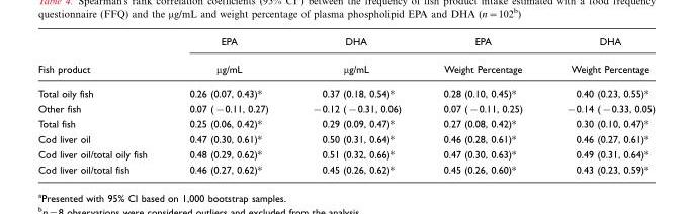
<table><thead><tr><td rowspan="2">Fish product</td><td rowspan="2">EPA µg/mL</td><td rowspan="2">DHA µg/mL</td><td rowspan="2">EPA Weight Percentage</td><td rowspan="2">DHA Weight Percentage</td></tr><tr></tr></thead><tbody><tr><td>Total oily fish</td><td>0.26 (0.07, 0.43)*</td><td>0.37 (0.18, 0.54)*</td><td>0.28 (0.10, 0.45)*</td><td>0.40 (0.23, 0.55)*</td></tr><tr><td>Other fish</td><td>0.07 (−0.11, 0.27)</td><td>−0.12 (−0.31, 0.06)</td><td>0.07 (−0.11, 0.25)</td><td>−0.14 (−0.33, 0.05)</td></tr><tr><td>Total fish</td><td>0.25 (0.06, 0.42)*</td><td>0.29 (0.09, 0.47)*</td><td>0.27 (0.08, 0.42)*</td><td>0.30 (0.10, 0.47)*</td></tr><tr><td>Cod liver oil</td><td>0.47 (0.30, 0.61)*</td><td>0.50 (0.31, 0.64)*</td><td>0.46 (0.28, 0.61)*</td><td>0.46 (0.27, 0.61)*</td></tr><tr><td>Cod liver oil/total oily fish</td><td>0.48 (0.29, 0.62)*</td><td>0.51 (0.32, 0.66)*</td><td>0.47 (0.30, 0.63)*</td><td>0.49 (0.31, 0.64)*</td></tr><tr><td>Cod liver oil/total fish</td><td>0.46 (0.27, 0.62)*</td><td>0.45 (0.26, 0.62)*</td><td>0.45 (0.26, 0.60)*</td><td>0.43 (0.23, 0.59)*</td></tr></tbody></table>